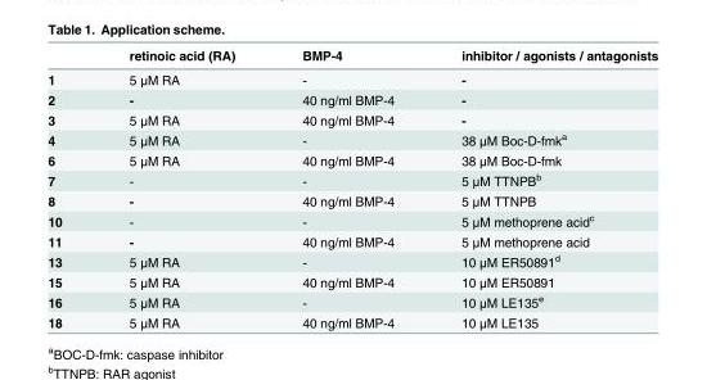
<table><thead><tr><td></td><td>retinoic acid (RA)</td><td>BMP-4</td><td>inhibitor / agonists / antagonists</td></tr></thead><tbody><tr><td>1</td><td>5 μM RA</td><td>-</td><td>-</td></tr><tr><td>2</td><td>-</td><td>40 ng/ml BMP-4</td><td>-</td></tr><tr><td>3</td><td>5 μM RA</td><td>40 ng/ml BMP-4</td><td>-</td></tr><tr><td>4</td><td>5 μM RA</td><td>-</td><td>38 μM Boc-D-fmk<sup>a</sup></td></tr><tr><td>6</td><td>5 μM RA</td><td>40 ng/ml BMP-4</td><td>38 μM Boc-D-fmk</td></tr><tr><td>7</td><td>-</td><td>-</td><td>5 μM TTNPB<sup>b</sup></td></tr><tr><td>8</td><td>-</td><td>40 ng/ml BMP-4</td><td>5 μM TTNPB</td></tr><tr><td>10</td><td>-</td><td>-</td><td>5 μM methoprene acid<sup>c</sup></td></tr><tr><td>11</td><td>-</td><td>40 ng/ml BMP-4</td><td>5 μM methoprene acid</td></tr><tr><td>13</td><td>5 μM RA</td><td>-</td><td>10 μM ER50891<sup>d</sup></td></tr><tr><td>15</td><td>5 μM RA</td><td>40 ng/ml BMP-4</td><td>10 μM ER50891</td></tr><tr><td>16</td><td>5 μM RA</td><td>-</td><td>10 μM LE135<sup>e</sup></td></tr><tr><td>18</td><td>5 μM RA</td><td>40 ng/ml BMP-4</td><td>10 μM LE135</td></tr></tbody></table>